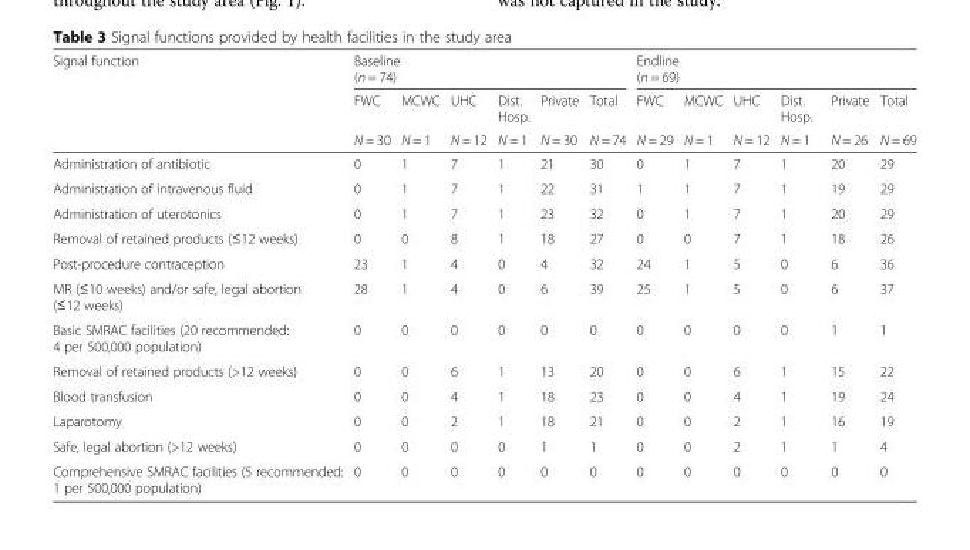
<table><thead><tr><td rowspan="4">Signal function</td><td rowspan="2" colspan="6">Baseline (n = 74)</td><td rowspan="2" colspan="6">Endline (n = 69)</td></tr><tr></tr><tr><td rowspan="2">FWC N = 30</td><td rowspan="2">MCWC N = 1</td><td rowspan="2">UHC N = 12</td><td rowspan="2">Dist. Hosp. N = 1</td><td rowspan="2">Private N = 30</td><td rowspan="2">Total N = 74</td><td rowspan="2">FWC N = 29</td><td rowspan="2">MCWC N = 1</td><td rowspan="2">UHC N = 12</td><td rowspan="2">Dist. Hosp. N = 1</td><td rowspan="2">Private N = 26</td><td rowspan="2">Total N = 69</td></tr><tr></tr></thead><tbody><tr><td>Administration of antibiotic</td><td>0</td><td>1</td><td>7</td><td>1</td><td>21</td><td>30</td><td>0</td><td>1</td><td>7</td><td>1</td><td>20</td><td>29</td></tr><tr><td>Administration of intravenous fluid</td><td>0</td><td>1</td><td>7</td><td>1</td><td>22</td><td>31</td><td>1</td><td>1</td><td>7</td><td>1</td><td>19</td><td>29</td></tr><tr><td>Administration of uterotonics</td><td>0</td><td>1</td><td>7</td><td>1</td><td>23</td><td>32</td><td>0</td><td>1</td><td>7</td><td>1</td><td>20</td><td>29</td></tr><tr><td>Removal of retained products (≤12 weeks)</td><td>0</td><td>0</td><td>8</td><td>1</td><td>18</td><td>27</td><td>0</td><td>0</td><td>7</td><td>1</td><td>18</td><td>26</td></tr><tr><td>Post-procedure contraception</td><td>23</td><td>1</td><td>4</td><td>0</td><td>4</td><td>32</td><td>24</td><td>1</td><td>5</td><td>0</td><td>6</td><td>36</td></tr><tr><td>MR (≤10 weeks) and/or safe, legal abortion (≤12 weeks)</td><td>28</td><td>1</td><td>4</td><td>0</td><td>6</td><td>39</td><td>25</td><td>1</td><td>5</td><td>0</td><td>6</td><td>37</td></tr><tr><td>Basic SMRAC facilities (20 recommended: 4 per 500,000 population)</td><td>0</td><td>0</td><td>0</td><td>0</td><td>0</td><td>0</td><td>0</td><td>0</td><td>0</td><td>0</td><td>1</td><td>1</td></tr><tr><td>Removal of retained products (&gt;12 weeks)</td><td>0</td><td>0</td><td>6</td><td>1</td><td>13</td><td>20</td><td>0</td><td>0</td><td>6</td><td>1</td><td>15</td><td>22</td></tr><tr><td>Blood transfusion</td><td>0</td><td>0</td><td>4</td><td>1</td><td>18</td><td>23</td><td>0</td><td>0</td><td>4</td><td>1</td><td>19</td><td>24</td></tr><tr><td>Laparotomy</td><td>0</td><td>0</td><td>2</td><td>1</td><td>18</td><td>21</td><td>0</td><td>0</td><td>2</td><td>1</td><td>16</td><td>19</td></tr><tr><td>Safe, legal abortion (&gt;12 weeks)</td><td>0</td><td>0</td><td>0</td><td>0</td><td>1</td><td>1</td><td>0</td><td>0</td><td>2</td><td>1</td><td>1</td><td>4</td></tr><tr><td>Comprehensive SMRAC facilities (5 recommended: 1 per 500,000 population)</td><td>0</td><td>0</td><td>0</td><td>0</td><td>0</td><td>0</td><td>0</td><td>0</td><td>0</td><td>0</td><td>0</td><td>0</td></tr></tbody></table>